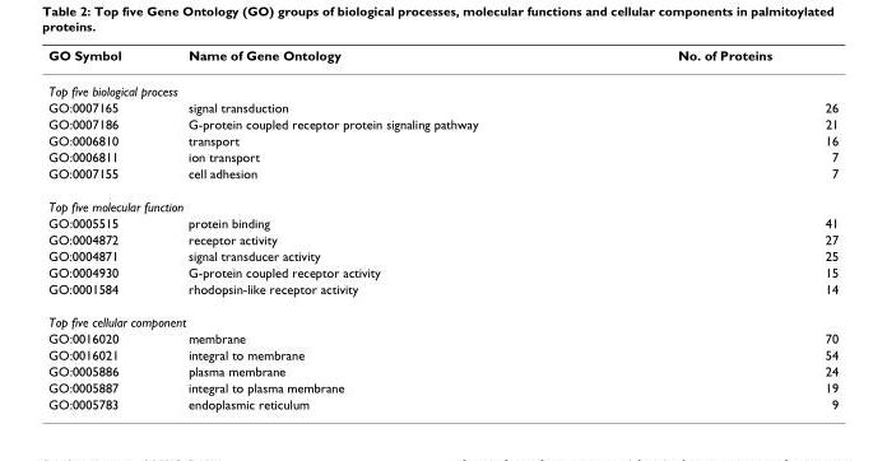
<table><thead><tr><td>GO Symbol</td><td>Name of Gene Ontology</td><td>No. of Proteins</td></tr></thead><tbody><tr><td colspan="3">Top five biological process</td></tr><tr><td>GO:0007165</td><td>signal transduction</td><td>26</td></tr><tr><td>GO:0007186</td><td>G-protein coupled receptor protein signaling pathway</td><td>21</td></tr><tr><td>GO:0006810</td><td>transport</td><td>16</td></tr><tr><td>GO:0006811</td><td>ion transport</td><td>7</td></tr><tr><td>GO:0007155</td><td>cell adhesion</td><td>7</td></tr><tr><td colspan="3">Top five molecular function</td></tr><tr><td>GO:0005515</td><td>protein binding</td><td>41</td></tr><tr><td>GO:0004872</td><td>receptor activity</td><td>27</td></tr><tr><td>GO:0004871</td><td>signal transducer activity</td><td>25</td></tr><tr><td>GO:0004930</td><td>G-protein coupled receptor activity</td><td>15</td></tr><tr><td>GO:0001584</td><td>rhodopsin-like receptor activity</td><td>14</td></tr><tr><td colspan="3">Top five cellular component</td></tr><tr><td>GO:0016020</td><td>membrane</td><td>70</td></tr><tr><td>GO:0016021</td><td>integral to membrane</td><td>54</td></tr><tr><td>GO:0005886</td><td>plasma membrane</td><td>24</td></tr><tr><td>GO:0005887</td><td>integral to plasma membrane</td><td>19</td></tr><tr><td>GO:0005783</td><td>endoplasmic reticulum</td><td>9</td></tr></tbody></table>